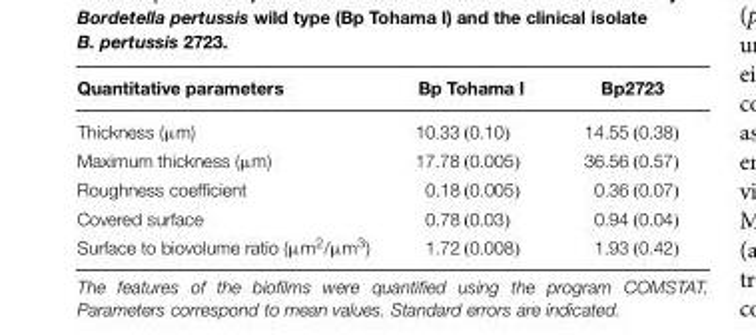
<table><thead><tr><td>Quantitative parameters</td><td>Bp Tohama I</td><td>Bp2723</td></tr></thead><tbody><tr><td>Thickness (μm)</td><td>10.33 (0.10)</td><td>14.55 (0.38)</td></tr><tr><td>Maximum thickness (μm)</td><td>17.78 (0.005)</td><td>36.56 (0.57)</td></tr><tr><td>Roughness coefficient</td><td>0.18 (0.005)</td><td>0.36 (0.07)</td></tr><tr><td>Covered surface</td><td>0.78 (0.03)</td><td>0.94 (0.04)</td></tr><tr><td>Surface to biovolume ratio (μm<sup>2</sup>/μm<sup>3</sup>)</td><td>1.72 (0.008)</td><td>1.93 (0.42)</td></tr></tbody></table>